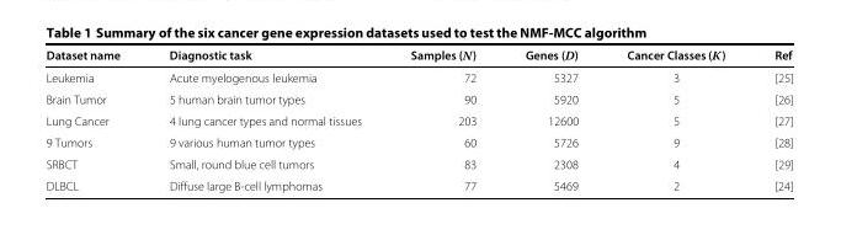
<table><thead><tr><td>Dataset name</td><td>Diagnostic task</td><td>Samples (N)</td><td>Genes (D)</td><td>Cancer Classes (K)</td><td>Ref</td></tr></thead><tbody><tr><td>Leukemia</td><td>Acute myelogenous leukemia</td><td>72</td><td>5327</td><td>3</td><td>[25]</td></tr><tr><td>Brain Tumor</td><td>5 human brain tumor types</td><td>90</td><td>5920</td><td>5</td><td>[26]</td></tr><tr><td>Lung Cancer</td><td>4 lung cancer types and normal tissues</td><td>203</td><td>12600</td><td>5</td><td>[27]</td></tr><tr><td>9 Tumors</td><td>9 various human tumor types</td><td>60</td><td>5726</td><td>9</td><td>[28]</td></tr><tr><td>SRBCT</td><td>Small, round blue cell tumors</td><td>83</td><td>2308</td><td>4</td><td>[29]</td></tr><tr><td>DLBCL</td><td>Diffuse large B-cell lymphomas</td><td>77</td><td>5469</td><td>2</td><td>[24]</td></tr></tbody></table>